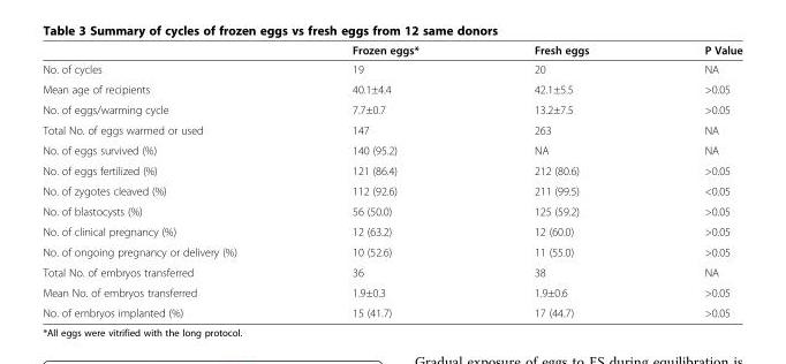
<table><thead><tr><td></td><td>Frozen eggs*</td><td>Fresh eggs</td><td>P Value</td></tr></thead><tbody><tr><td>No. of cycles</td><td>19</td><td>20</td><td>NA</td></tr><tr><td>Mean age of recipients</td><td>40.1±4.4</td><td>42.1±5.5</td><td>&gt;0.05</td></tr><tr><td>No. of eggs/warming cycle</td><td>7.7±0.7</td><td>13.2±7.5</td><td>&gt;0.05</td></tr><tr><td>Total No. of eggs warmed or used</td><td>147</td><td>263</td><td>NA</td></tr><tr><td>No. of eggs survived (%)</td><td>140 (95.2)</td><td>NA</td><td>NA</td></tr><tr><td>No. of eggs fertilized (%)</td><td>121 (86.4)</td><td>212 (80.6)</td><td>&gt;0.05</td></tr><tr><td>No. of zygotes cleaved (%)</td><td>112 (92.6)</td><td>211 (99.5)</td><td>&lt;0.05</td></tr><tr><td>No. of blastocysts (%)</td><td>56 (50.0)</td><td>125 (59.2)</td><td>&gt;0.05</td></tr><tr><td>No. of clinical pregnancy (%)</td><td>12 (63.2)</td><td>12 (60.0)</td><td>&gt;0.05</td></tr><tr><td>No. of ongoing pregnancy or delivery (%)</td><td>10 (52.6)</td><td>11 (55.0)</td><td>&gt;0.05</td></tr><tr><td>Total No. of embryos transferred</td><td>36</td><td>38</td><td>NA</td></tr><tr><td>Mean No. of embryos transferred</td><td>1.9±0.3</td><td>1.9±0.6</td><td>&gt;0.05</td></tr><tr><td>No. of embryos implanted (%)</td><td>15 (41.7)</td><td>17 (44.7)</td><td>&gt;0.05</td></tr></tbody></table>